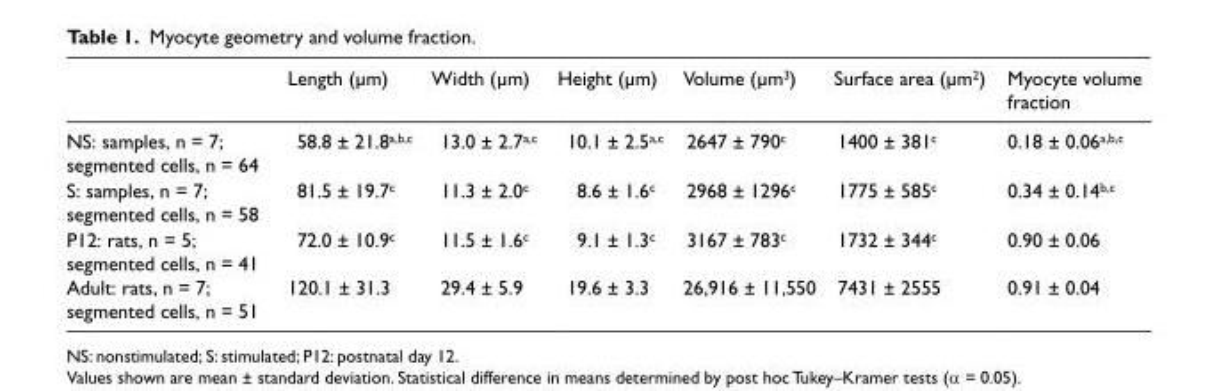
<table><thead><tr><td></td><td>Length (µm)</td><td>Width (µm)</td><td>Height (µm)</td><td>Volume (µm<sup>3</sup>)</td><td>Surface area (µm<sup>2</sup>)</td><td>Myocyte volume fraction</td></tr></thead><tbody><tr><td>NS: samples, n = 7; segmented cells, n = 64</td><td>58.8 ± 21.8<sup>a,b,c</sup></td><td>13.0 ± 2.7<sup>a,c</sup></td><td>10.1 ± 2.5<sup>a,c</sup></td><td>2647 ± 790<sup>c</sup></td><td>1400 ± 381<sup>c</sup></td><td>0.18 ± 0.06<sup>a,b,c</sup></td></tr><tr><td>S: samples, n = 7; segmented cells, n = 58</td><td>81.5 ± 19.7<sup>c</sup></td><td>11.3 ± 2.0<sup>c</sup></td><td>8.6 ± 1.6<sup>c</sup></td><td>2968 ± 1296<sup>c</sup></td><td>1775 ± 585<sup>c</sup></td><td>0.34 ± 0.14<sup>b,c</sup></td></tr><tr><td>P12: rats, n = 5; segmented cells, n = 41</td><td>72.0 ± 10.9<sup>c</sup></td><td>11.5 ± 1.6<sup>c</sup></td><td>9.1 ± 1.3<sup>c</sup></td><td>3167 ± 783<sup>c</sup></td><td>1732 ± 344<sup>c</sup></td><td>0.90 ± 0.06</td></tr><tr><td>Adult: rats, n = 7; segmented cells, n = 51</td><td>120.1 ± 31.3</td><td>29.4 ± 5.9</td><td>19.6 ± 3.3</td><td>26,916 ± 11,550</td><td>7431 ± 2555</td><td>0.91 ± 0.04</td></tr></tbody></table>